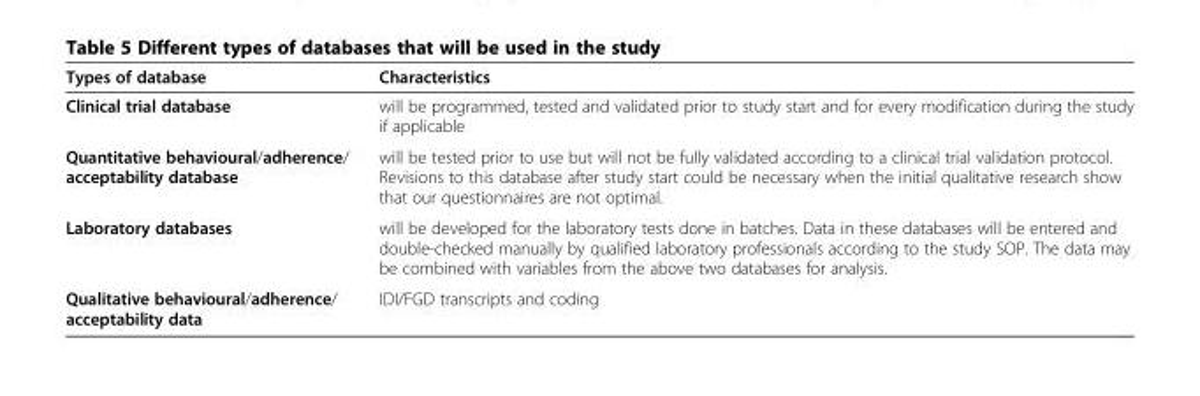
<table><thead><tr><td>Types of database</td><td>Characteristics</td></tr></thead><tbody><tr><td>Clinical trial database</td><td>will be programmed, tested and validated prior to study start and for every modification during the study if applicable</td></tr><tr><td>Quantitative behavioural/adherence/ acceptability database</td><td>will be tested prior to use but will not be fully validated according to a clinical trial validation protocol. Revisions to this database after study start could be necessary when the initial qualitative research show that our questionnaires are not optimal.</td></tr><tr><td>Laboratory databases</td><td>will be developed for the laboratory tests done in batches. Data in these databases will be entered and double-checked manually by qualified laboratory professionals according to the study SOP. The data may be combined with variables from the above two databases for analysis.</td></tr><tr><td>Qualitative behavioural/adherence/ acceptability data</td><td>IDI/FGD transcripts and coding</td></tr></tbody></table>